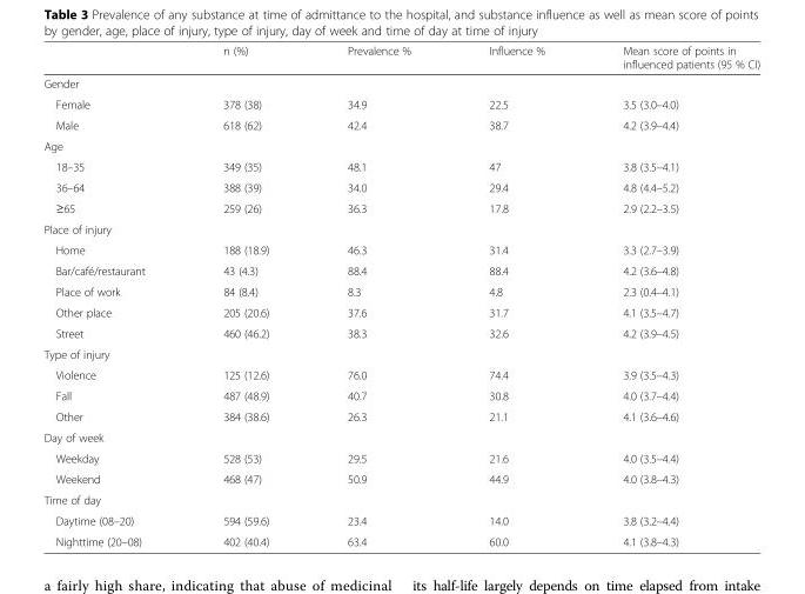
<table><thead><tr><td></td><td>n (%)</td><td>Prevalence %</td><td>Influence %</td><td>Mean score of points in influenced patients (95 % CI)</td></tr></thead><tbody><tr><td colspan="5">Gender</td></tr><tr><td>Female</td><td>378 (38)</td><td>34.9</td><td>22.5</td><td>3.5 (3.0–4.0)</td></tr><tr><td>Male</td><td>618 (62)</td><td>42.4</td><td>38.7</td><td>4.2 (3.9–4.4)</td></tr><tr><td colspan="5">Age</td></tr><tr><td>18–35</td><td>349 (35)</td><td>48.1</td><td>47</td><td>3.8 (3.5–4.1)</td></tr><tr><td>36–64</td><td>388 (39)</td><td>34.0</td><td>29.4</td><td>4.8 (4.4–5.2)</td></tr><tr><td>≥65</td><td>259 (26)</td><td>36.3</td><td>17.8</td><td>2.9 (2.2–3.5)</td></tr><tr><td colspan="5">Place of injury</td></tr><tr><td>Home</td><td>188 (18.9)</td><td>46.3</td><td>31.4</td><td>3.3 (2.7–3.9)</td></tr><tr><td>Bar/café/restaurant</td><td>43 (4.3)</td><td>88.4</td><td>88.4</td><td>4.2 (3.6–4.8)</td></tr><tr><td>Place of work</td><td>84 (8.4)</td><td>8.3</td><td>4.8</td><td>2.3 (0.4–4.1)</td></tr><tr><td>Other place</td><td>205 (20.6)</td><td>37.6</td><td>31.7</td><td>4.1 (3.5–4.7)</td></tr><tr><td>Street</td><td>460 (46.2)</td><td>38.3</td><td>32.6</td><td>4.2 (3.9–4.5)</td></tr><tr><td colspan="5">Type of injury</td></tr><tr><td>Violence</td><td>125 (12.6)</td><td>76.0</td><td>74.4</td><td>3.9 (3.5–4.3)</td></tr><tr><td>Fall</td><td>487 (48.9)</td><td>40.7</td><td>30.8</td><td>4.0 (3.7–4.4)</td></tr><tr><td>Other</td><td>384 (38.6)</td><td>26.3</td><td>21.1</td><td>4.1 (3.6–4.6)</td></tr><tr><td colspan="5">Day of week</td></tr><tr><td>Weekday</td><td>528 (53)</td><td>29.5</td><td>21.6</td><td>4.0 (3.5–4.4)</td></tr><tr><td>Weekend</td><td>468 (47)</td><td>50.9</td><td>44.9</td><td>4.0 (3.8–4.3)</td></tr><tr><td colspan="5">Time of day</td></tr><tr><td>Daytime (08–20)</td><td>594 (59.6)</td><td>23.4</td><td>14.0</td><td>3.8 (3.2–4.4)</td></tr><tr><td>Nighttime (20–08)</td><td>402 (40.4)</td><td>63.4</td><td>60.0</td><td>4.1 (3.8–4.3)</td></tr></tbody></table>